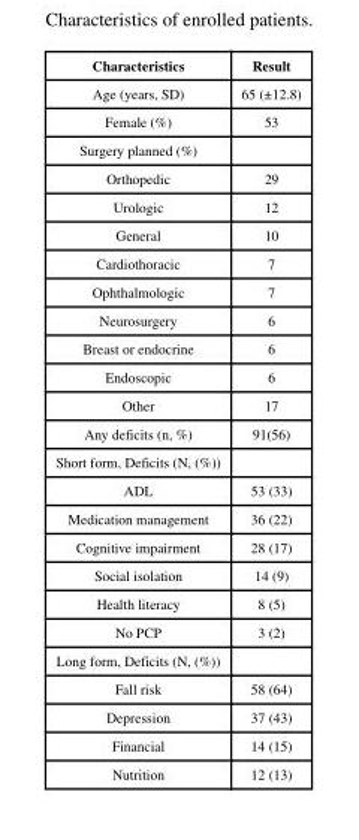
<table><thead><tr><td>Characteristics</td><td>Result</td></tr></thead><tbody><tr><td>Age (years, SD)</td><td>65 (±12.8)</td></tr><tr><td>Female (%)</td><td>53</td></tr><tr><td colspan="2">Surgery planned (%)</td></tr><tr><td>Orthopedic</td><td>29</td></tr><tr><td>Urologic</td><td>12</td></tr><tr><td>General</td><td>10</td></tr><tr><td>Cardiothoracic</td><td>7</td></tr><tr><td>Ophthalmologic</td><td>7</td></tr><tr><td>Neurosurgery</td><td>6</td></tr><tr><td>Breast or endocrine</td><td>6</td></tr><tr><td>Endoscopic</td><td>6</td></tr><tr><td>Other</td><td>17</td></tr><tr><td>Any deficits (n, %)</td><td>91(56)</td></tr><tr><td colspan="2">Short form, Deficits (N, (%))</td></tr><tr><td>ADL</td><td>53 (33)</td></tr><tr><td>Medication management</td><td>36 (22)</td></tr><tr><td>Cognitive impairment</td><td>28 (17)</td></tr><tr><td>Social isolation</td><td>14 (9)</td></tr><tr><td>Health literacy</td><td>8 (5)</td></tr><tr><td>No PCP</td><td>3 (2)</td></tr><tr><td colspan="2">Long form, Deficits (N, (%))</td></tr><tr><td>Fall risk</td><td>58 (64)</td></tr><tr><td>Depression</td><td>37 (43)</td></tr><tr><td>Financial</td><td>14 (15)</td></tr><tr><td>Nutrition</td><td>12 (13)</td></tr></tbody></table>